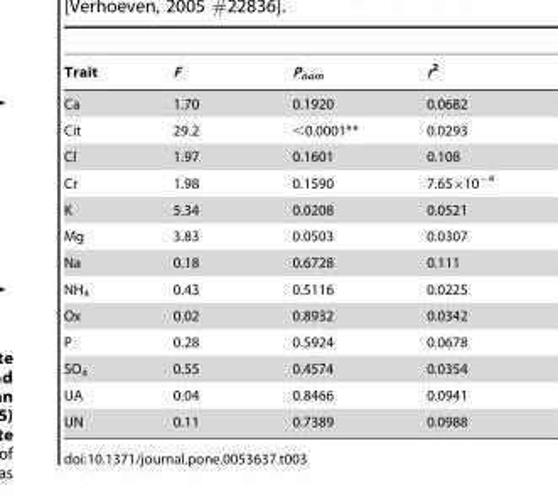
<table><thead><tr><td>Trait</td><td>F</td><td>P<sub>nom</sub></td><td>r<sup>2</sup></td></tr></thead><tbody><tr><td>Ca</td><td>1.70</td><td>0.1920</td><td>0.0682</td></tr><tr><td>Cit</td><td>29.2</td><td>&lt;0.0001**</td><td>0.0293</td></tr><tr><td>Cl</td><td>1.97</td><td>0.1601</td><td>0.108</td></tr><tr><td>Cr</td><td>1.98</td><td>0.1590</td><td>7.65×10<sup>−4</sup></td></tr><tr><td>K</td><td>5.34</td><td>0.0208</td><td>0.0521</td></tr><tr><td>Mg</td><td>3.83</td><td>0.0503</td><td>0.0307</td></tr><tr><td>Na</td><td>0.18</td><td>0.6728</td><td>0.111</td></tr><tr><td>NH<sub>4</sub></td><td>0.43</td><td>0.5116</td><td>0.0225</td></tr><tr><td>Ox</td><td>0.02</td><td>0.8932</td><td>0.0342</td></tr><tr><td>P</td><td>0.28</td><td>0.5924</td><td>0.0678</td></tr><tr><td>SO<sub>4</sub></td><td>0.55</td><td>0.4574</td><td>0.0354</td></tr><tr><td>UA</td><td>0.04</td><td>0.8466</td><td>0.0941</td></tr><tr><td>UN</td><td>0.11</td><td>0.7389</td><td>0.0988</td></tr></tbody></table>